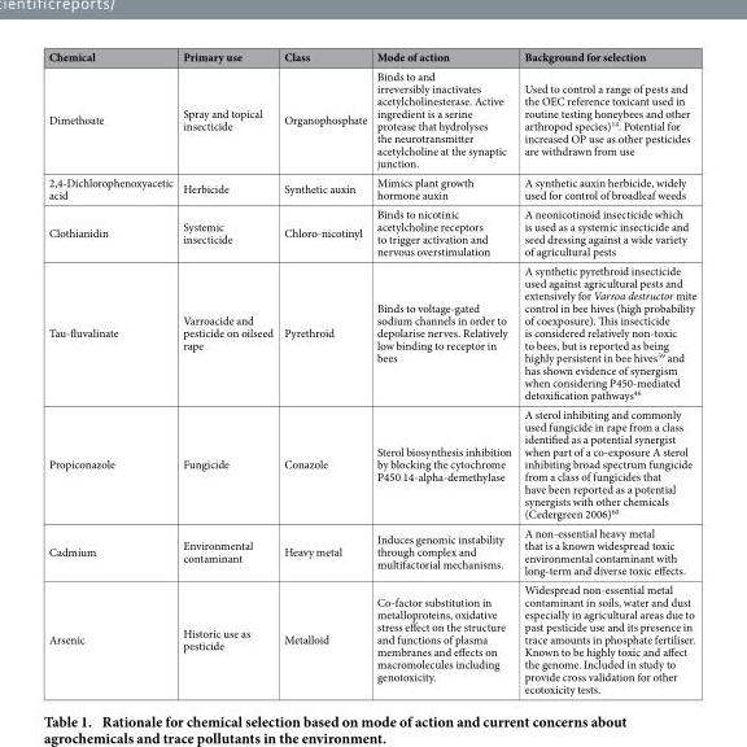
<table><thead><tr><td>Chemical</td><td>Primary use</td><td>Class</td><td>Mode of action</td><td>Background for selection</td></tr></thead><tbody><tr><td>Dimethoate</td><td>Spray and topical insecticide</td><td>Organophosphate</td><td>Binds to and irreversibly inactivates acetylcholinesterase. Active ingredient is a serine protease that hydrolyses the neurotransmitter acetylcholine at the synaptic junction.</td><td>Used to control a range of pests and the OEC reference toxicant used in routine testing honeybees and other arthropod species)<sup>14</sup>. Potential for increased OP use as other pesticides are withdrawn from use</td></tr><tr><td>2,4-Dichlorophenoxyacetic acid</td><td>Herbicide</td><td>Synthetic auxin</td><td>Mimics plant growth hormone auxin</td><td>A synthetic auxin herbicide, widely used for control of broadleaf weeds</td></tr><tr><td>Clothianidin</td><td>Systemic insecticide</td><td>Chloro-nicotinyl</td><td>Binds to nicotinic acetylcholine receptors to trigger activation and nervous overstimulation</td><td>A neonicotinoid insecticide which is used as a systemic insecticide and seed dressing against a wide variety of agricultural pests</td></tr><tr><td>Tau-fluvalinate</td><td>Varroacide and pesticide on oilseed rape</td><td>Pyrethroid</td><td>Binds to voltage-gated sodium channels in order to depolarise nerves. Relatively low binding to receptor in bees</td><td>A synthetic pyrethroid insecticide used against agricultural pests and extensively for Varroa destructor mite control in bee hives (high probability of coexposure). This insecticide is considered relatively non-toxic to bees, but is reported as being highly persistent in bee hives<sup>59</sup> and has shown evidence of synergism when considering P450-mediated detoxification pathways<sup>46</sup></td></tr><tr><td>Propiconazole</td><td>Fungicide</td><td>Conazole</td><td>Sterol biosynthesis inhibition by blocking the cytochrome P450 14-alpha-demethylase</td><td>A sterol inhibiting and commonly used fungicide in rape from a class identified as a potential synergist when part of a co-exposure A sterol inhibiting broad spectrum fungicide from a class of fungicides that have been reported as a potential synergists with other chemicals (Cedergreen 2006)<sup>60</sup></td></tr><tr><td>Cadmium</td><td>Environmental contaminant</td><td>Heavy metal</td><td>Induces genomic instability through complex and multifactorial mechanisms.</td><td>A non-essential heavy metal that is a known widespread toxic environmental contaminant with long-term and diverse toxic effects.</td></tr><tr><td>Arsenic</td><td>Historic use as pesticide</td><td>Metalloid</td><td>Co-factor substitution in metalloproteins, oxidative stress effect on the structure and functions of plasma membranes and effects on macromolecules including genotoxicity.</td><td>Widespread non-essential metal contaminant in soils, water and dust especially in agricultural areas due to past pesticide use and its presence in trace amounts in phosphate fertiliser. Known to be highly toxic and affect the genome. Included in study to provide cross validation for other ecotoxicity tests.</td></tr></tbody></table>